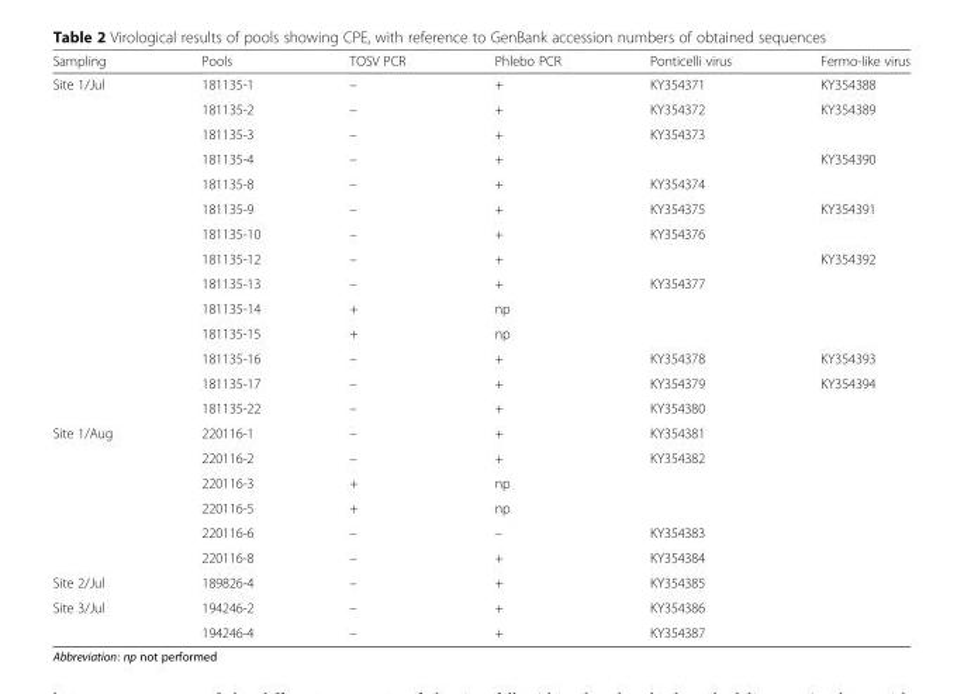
<table><thead><tr><td>Sampling</td><td>Pools</td><td>TOSV PCR</td><td>Phlebo PCR</td><td>Ponticelli virus</td><td>Fermo-like virus</td></tr></thead><tbody><tr><td rowspan="14">Site 1/Jul</td><td>181135-1</td><td>–</td><td>+</td><td>KY354371</td><td>KY354388</td></tr><tr><td>181135-2</td><td>–</td><td>+</td><td>KY354372</td><td>KY354389</td></tr><tr><td>181135-3</td><td>–</td><td>+</td><td>KY354373</td><td></td></tr><tr><td>181135-4</td><td>–</td><td>+</td><td></td><td>KY354390</td></tr><tr><td>181135-8</td><td>–</td><td>+</td><td>KY354374</td><td></td></tr><tr><td>181135-9</td><td>–</td><td>+</td><td>KY354375</td><td>KY354391</td></tr><tr><td>181135-10</td><td>–</td><td>+</td><td>KY354376</td><td></td></tr><tr><td>181135-12</td><td>–</td><td>+</td><td></td><td>KY354392</td></tr><tr><td>181135-13</td><td>–</td><td>+</td><td>KY354377</td><td></td></tr><tr><td>181135-14</td><td>+</td><td>np</td><td></td><td></td></tr><tr><td>181135-15</td><td>+</td><td>np</td><td></td><td></td></tr><tr><td>181135-16</td><td>–</td><td>+</td><td>KY354378</td><td>KY354393</td></tr><tr><td>181135-17</td><td>–</td><td>+</td><td>KY354379</td><td>KY354394</td></tr><tr><td>181135-22</td><td>–</td><td>+</td><td>KY354380</td><td></td></tr><tr><td rowspan="6">Site 1/Aug</td><td>220116-1</td><td>–</td><td>+</td><td>KY354381</td><td></td></tr><tr><td>220116-2</td><td>–</td><td>+</td><td>KY354382</td><td></td></tr><tr><td>220116-3</td><td>+</td><td>np</td><td></td><td></td></tr><tr><td>220116-5</td><td>+</td><td>np</td><td></td><td></td></tr><tr><td>220116-6</td><td>–</td><td>–</td><td>KY354383</td><td></td></tr><tr><td>220116-8</td><td>–</td><td>+</td><td>KY354384</td><td></td></tr><tr><td>Site 2/Jul</td><td>189826-4</td><td>–</td><td>+</td><td>KY354385</td><td></td></tr><tr><td rowspan="2">Site 3/Jul</td><td>194246-2</td><td>–</td><td>+</td><td>KY354386</td><td></td></tr><tr><td>194246-4</td><td>–</td><td>+</td><td>KY354387</td><td></td></tr></tbody></table>